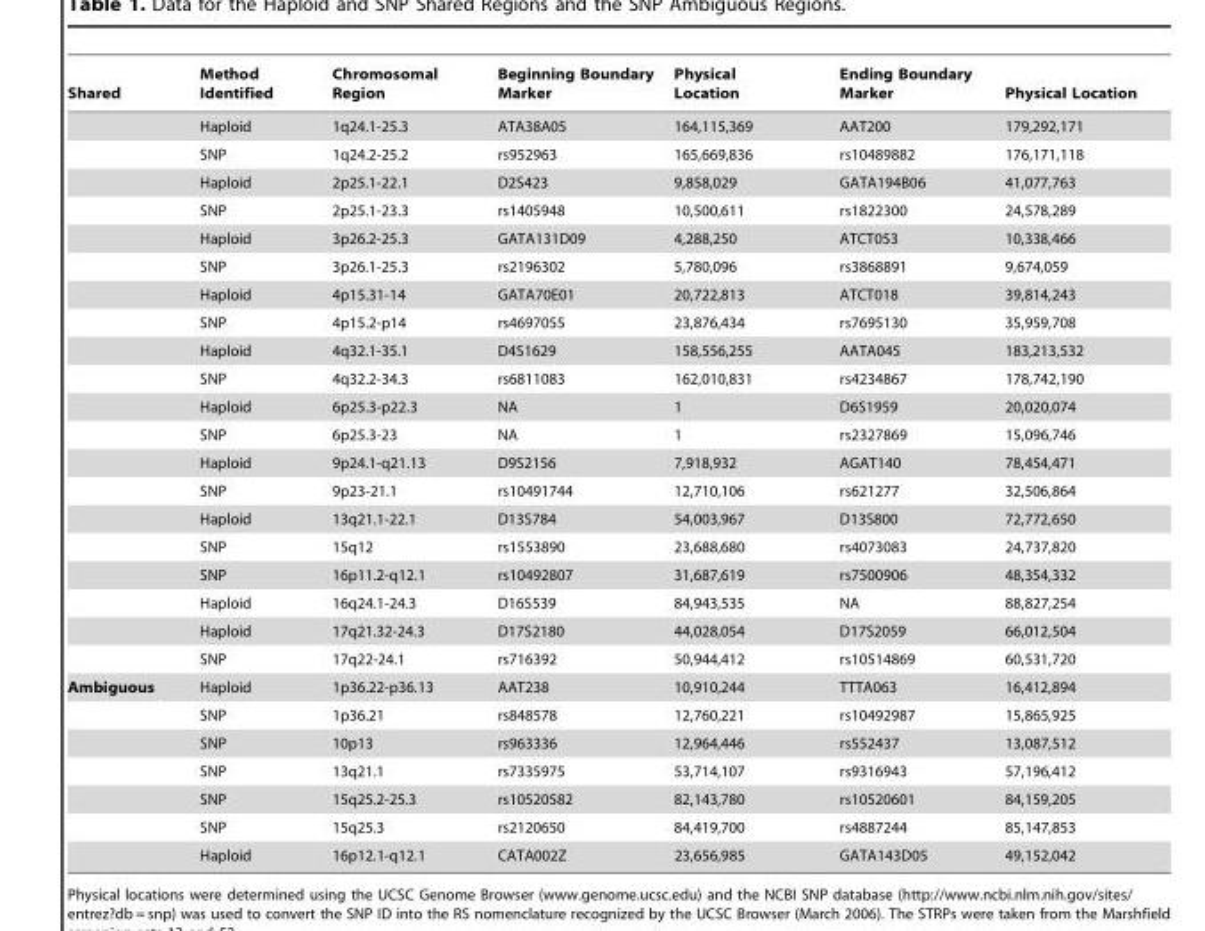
<table><thead><tr><td>Shared</td><td>Method Identified</td><td>Chromosomal Region</td><td>Beginning Boundary Marker</td><td>Physical Location</td><td>Ending Boundary Marker</td><td>Physical Location</td></tr></thead><tbody><tr><td></td><td>Haploid</td><td>1q24.1-25.3</td><td>ATA38A05</td><td>164,115,369</td><td>AAT200</td><td>179,292,171</td></tr><tr><td></td><td>SNP</td><td>1q24.2-25.2</td><td>rs952963</td><td>165,669,836</td><td>rs10489882</td><td>176,171,118</td></tr><tr><td></td><td>Haploid</td><td>2p25.1-22.1</td><td>D2S423</td><td>9,858,029</td><td>GATA194B06</td><td>41,077,763</td></tr><tr><td></td><td>SNP</td><td>2p25.1-23.3</td><td>rs1405948</td><td>10,500,611</td><td>rs1822300</td><td>24,578,289</td></tr><tr><td></td><td>Haploid</td><td>3p26.2-25.3</td><td>GATA131D09</td><td>4,288,250</td><td>ATCT053</td><td>10,338,466</td></tr><tr><td></td><td>SNP</td><td>3p26.1-25.3</td><td>rs2196302</td><td>5,780,096</td><td>rs3868891</td><td>9,674,059</td></tr><tr><td></td><td>Haploid</td><td>4p15.31-14</td><td>GATA70E01</td><td>20,722,813</td><td>ATCT018</td><td>39,814,243</td></tr><tr><td></td><td>SNP</td><td>4p15.2-p14</td><td>rs4697055</td><td>23,876,434</td><td>rs7695130</td><td>35,959,708</td></tr><tr><td></td><td>Haploid</td><td>4q32.1-35.1</td><td>D4S1629</td><td>158,556,255</td><td>AATA045</td><td>183,213,532</td></tr><tr><td></td><td>SNP</td><td>4q32.2-34.3</td><td>rs6811083</td><td>162,010,831</td><td>rs4234867</td><td>178,742,190</td></tr><tr><td></td><td>Haploid</td><td>6p25.3-p22.3</td><td>NA</td><td>1</td><td>D6S1959</td><td>20,020,074</td></tr><tr><td></td><td>SNP</td><td>6p25.3-23</td><td>NA</td><td>1</td><td>rs2327869</td><td>15,096,746</td></tr><tr><td></td><td>Haploid</td><td>9p24.1-q21.13</td><td>D9S2156</td><td>7,918,932</td><td>AGAT140</td><td>78,454,471</td></tr><tr><td></td><td>SNP</td><td>9p23-21.1</td><td>rs10491744</td><td>12,710,106</td><td>rs621277</td><td>32,506,864</td></tr><tr><td></td><td>Haploid</td><td>13q21.1-22.1</td><td>D13S784</td><td>54,003,967</td><td>D13S800</td><td>72,772,650</td></tr><tr><td></td><td>SNP</td><td>15q12</td><td>rs1553890</td><td>23,688,680</td><td>rs4073083</td><td>24,737,820</td></tr><tr><td></td><td>SNP</td><td>16p11.2-q12.1</td><td>rs10492807</td><td>31,687,619</td><td>rs7500906</td><td>48,354,332</td></tr><tr><td></td><td>Haploid</td><td>16q24.1-24.3</td><td>D16S539</td><td>84,943,535</td><td>NA</td><td>88,827,254</td></tr><tr><td></td><td>Haploid</td><td>17q21.32-24.3</td><td>D17S2180</td><td>44,028,054</td><td>D17S2059</td><td>66,012,504</td></tr><tr><td></td><td>SNP</td><td>17q22-24.1</td><td>rs716392</td><td>50,944,412</td><td>rs10514869</td><td>60,531,720</td></tr><tr><td rowspan="7">Ambiguous</td><td>Haploid</td><td>1p36.22-p36.13</td><td>AAT238</td><td>10,910,244</td><td>TTTA063</td><td>16,412,894</td></tr><tr><td>SNP</td><td>1p36.21</td><td>rs848578</td><td>12,760,221</td><td>rs10492987</td><td>15,865,925</td></tr><tr><td>SNP</td><td>10p13</td><td>rs963336</td><td>12,964,446</td><td>rs552437</td><td>13,087,512</td></tr><tr><td>SNP</td><td>13q21.1</td><td>rs7335975</td><td>53,714,107</td><td>rs9316943</td><td>57,196,412</td></tr><tr><td>SNP</td><td>15q25.2-25.3</td><td>rs10520582</td><td>82,143,780</td><td>rs10520601</td><td>84,159,205</td></tr><tr><td>SNP</td><td>15q25.3</td><td>rs2120650</td><td>84,419,700</td><td>rs4887244</td><td>85,147,853</td></tr><tr><td>Haploid</td><td>16p12.1-q12.1</td><td>CATA002Z</td><td>23,656,985</td><td>GATA143D05</td><td>49,152,042</td></tr></tbody></table>